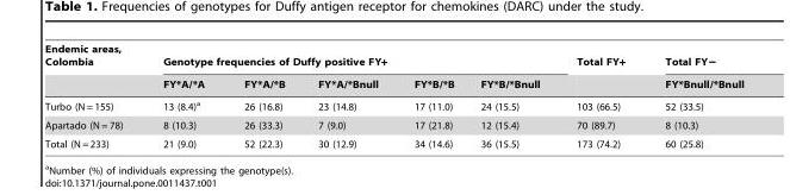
<table><thead><tr><td rowspan="2">Endemic areas, Colombia</td><td colspan="5">Genotype frequencies of Duffy positive FY+</td><td rowspan="2">Total FY+</td><td rowspan="2">Total FY− FY*Bnull/*Bnull</td></tr><tr><td>FY*A/*A</td><td>FY*A/*B</td><td>FY*A/*Bnull</td><td>FY*B/*B</td><td>FY*B/*Bnull</td></tr></thead><tbody><tr><td>Turbo (N = 155)</td><td>13 (8.4)<sup>a</sup></td><td>26 (16.8)</td><td>23 (14.8)</td><td>17 (11.0)</td><td>24 (15.5)</td><td>103 (66.5)</td><td>52 (33.5)</td></tr><tr><td>Apartado (N = 78)</td><td>8 (10.3)</td><td>26 (33.3)</td><td>7 (9.0)</td><td>17 (21.8)</td><td>12 (15.4)</td><td>70 (89.7)</td><td>8 (10.3)</td></tr><tr><td>Total (N = 233)</td><td>21 (9.0)</td><td>52 (22.3)</td><td>30 (12.9)</td><td>34 (14.6)</td><td>36 (15.5)</td><td>173 (74.2)</td><td>60 (25.8)</td></tr></tbody></table>